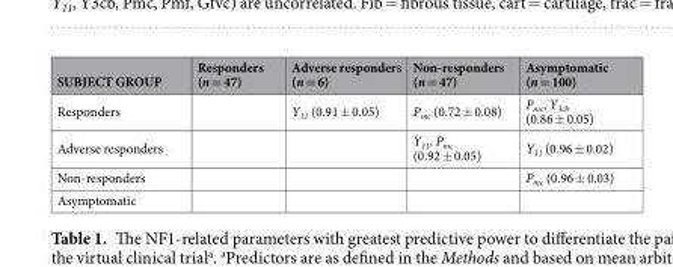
<table><thead><tr><td>SUBJECT GROUP</td><td>Responders (n = 47)</td><td>Adverse responders (n = 6)</td><td>Non-responders (n = 47)</td><td>Asymptomatic (n = 100)</td></tr></thead><tbody><tr><td>Responders</td><td></td><td>Y<sub>11</sub> (0.91 ± 0.05)</td><td>P<sub>mc</sub> (0.72 ± 0.08)</td><td>P<sub>mc</sub>, Y<sub>3cb</sub> (0.86 ± 0.05)</td></tr><tr><td>Adverse responders</td><td></td><td></td><td>Y<sub>11</sub>, P<sub>mc</sub> (0.92 ± 0.05)</td><td>Y<sub>11</sub> (0.96 ± 0.02)</td></tr><tr><td>Non-responders</td><td></td><td></td><td></td><td>P<sub>mc</sub> (0.96 ± 0.03)</td></tr><tr><td>Asymptomatic</td><td></td><td></td><td></td><td></td></tr></tbody></table>